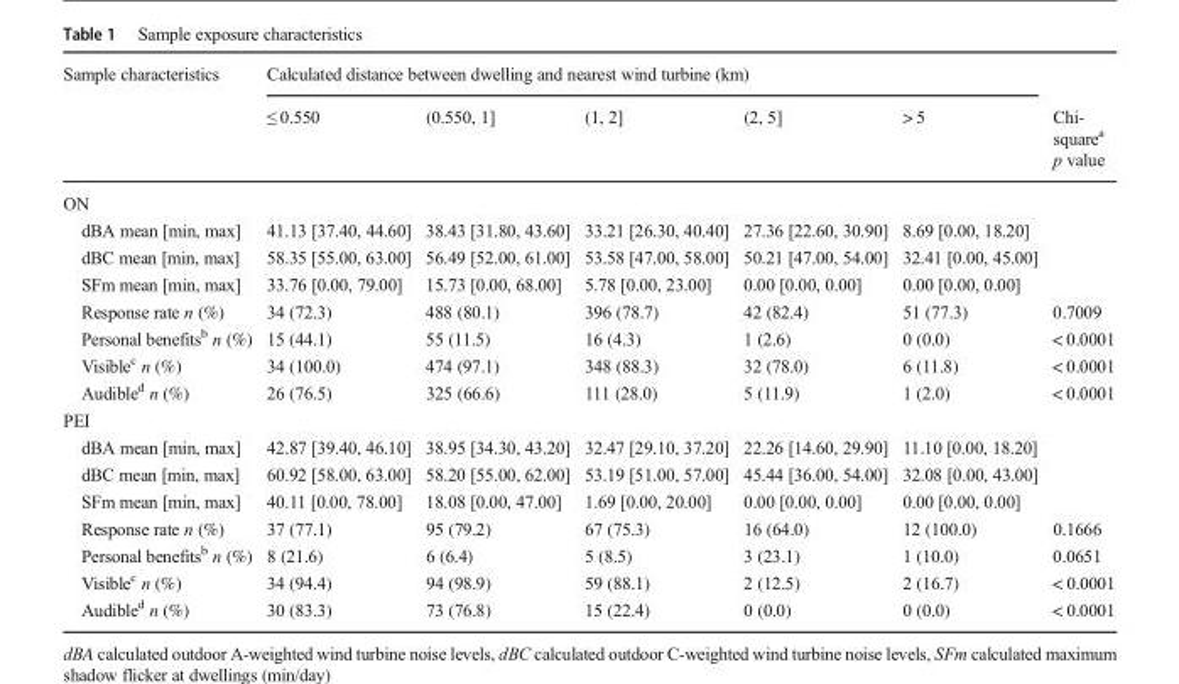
<table><thead><tr><td rowspan="2">Sample characteristics</td><td colspan="5">Calculated distance between dwelling and nearest wind turbine (km)</td><td rowspan="2">Chi- square<sup>a</sup> p value</td></tr><tr><td>≤ 0.550</td><td>(0.550, 1]</td><td>(1, 2]</td><td>(2, 5]</td><td>&gt; 5</td></tr></thead><tbody><tr><td colspan="7">ON</td></tr><tr><td>dBA mean [min, max]</td><td>41.13 [37.40, 44.60]</td><td>38.43 [31.80, 43.60]</td><td>33.21 [26.30, 40.40]</td><td>27.36 [22.60, 30.90]</td><td>8.69 [0.00, 18.20]</td><td></td></tr><tr><td>dBC mean [min, max]</td><td>58.35 [55.00, 63.00]</td><td>56.49 [52.00, 61.00]</td><td>53.58 [47.00, 58.00]</td><td>50.21 [47.00, 54.00]</td><td>32.41 [0.00, 45.00]</td><td></td></tr><tr><td>SFm mean [min, max]</td><td>33.76 [0.00, 79.00]</td><td>15.73 [0.00, 68.00]</td><td>5.78 [0.00, 23.00]</td><td>0.00 [0.00, 0.00]</td><td>0.00 [0.00, 0.00]</td><td></td></tr><tr><td>Response rate n (%)</td><td>34 (72.3)</td><td>488 (80.1)</td><td>396 (78.7)</td><td>42 (82.4)</td><td>51 (77.3)</td><td>0.7009</td></tr><tr><td>Personal benefits<sup>b</sup> n (%)</td><td>15 (44.1)</td><td>55 (11.5)</td><td>16 (4.3)</td><td>1 (2.6)</td><td>0 (0.0)</td><td>&lt; 0.0001</td></tr><tr><td>Visible<sup>c</sup> n (%)</td><td>34 (100.0)</td><td>474 (97.1)</td><td>348 (88.3)</td><td>32 (78.0)</td><td>6 (11.8)</td><td>&lt; 0.0001</td></tr><tr><td>Audible<sup>d</sup> n (%)</td><td>26 (76.5)</td><td>325 (66.6)</td><td>111 (28.0)</td><td>5 (11.9)</td><td>1 (2.0)</td><td>&lt; 0.0001</td></tr><tr><td colspan="7">PEI</td></tr><tr><td>dBA mean [min, max]</td><td>42.87 [39.40, 46.10]</td><td>38.95 [34.30, 43.20]</td><td>32.47 [29.10, 37.20]</td><td>22.26 [14.60, 29.90]</td><td>11.10 [0.00, 18.20]</td><td></td></tr><tr><td>dBC mean [min, max]</td><td>60.92 [58.00, 63.00]</td><td>58.20 [55.00, 62.00]</td><td>53.19 [51.00, 57.00]</td><td>45.44 [36.00, 54.00]</td><td>32.08 [0.00, 43.00]</td><td></td></tr><tr><td>SFm mean [min, max]</td><td>40.11 [0.00, 78.00]</td><td>18.08 [0.00, 47.00]</td><td>1.69 [0.00, 20.00]</td><td>0.00 [0.00, 0.00]</td><td>0.00 [0.00, 0.00]</td><td></td></tr><tr><td>Response rate n (%)</td><td>37 (77.1)</td><td>95 (79.2)</td><td>67 (75.3)</td><td>16 (64.0)</td><td>12 (100.0)</td><td>0.1666</td></tr><tr><td>Personal benefits<sup>b</sup> n (%)</td><td>8 (21.6)</td><td>6 (6.4)</td><td>5 (8.5)</td><td>3 (23.1)</td><td>1 (10.0)</td><td>0.0651</td></tr><tr><td>Visible<sup>c</sup> n (%)</td><td>34 (94.4)</td><td>94 (98.9)</td><td>59 (88.1)</td><td>2 (12.5)</td><td>2 (16.7)</td><td>&lt; 0.0001</td></tr><tr><td>Audible<sup>d</sup> n (%)</td><td>30 (83.3)</td><td>73 (76.8)</td><td>15 (22.4)</td><td>0 (0.0)</td><td>0 (0.0)</td><td>&lt; 0.0001</td></tr></tbody></table>